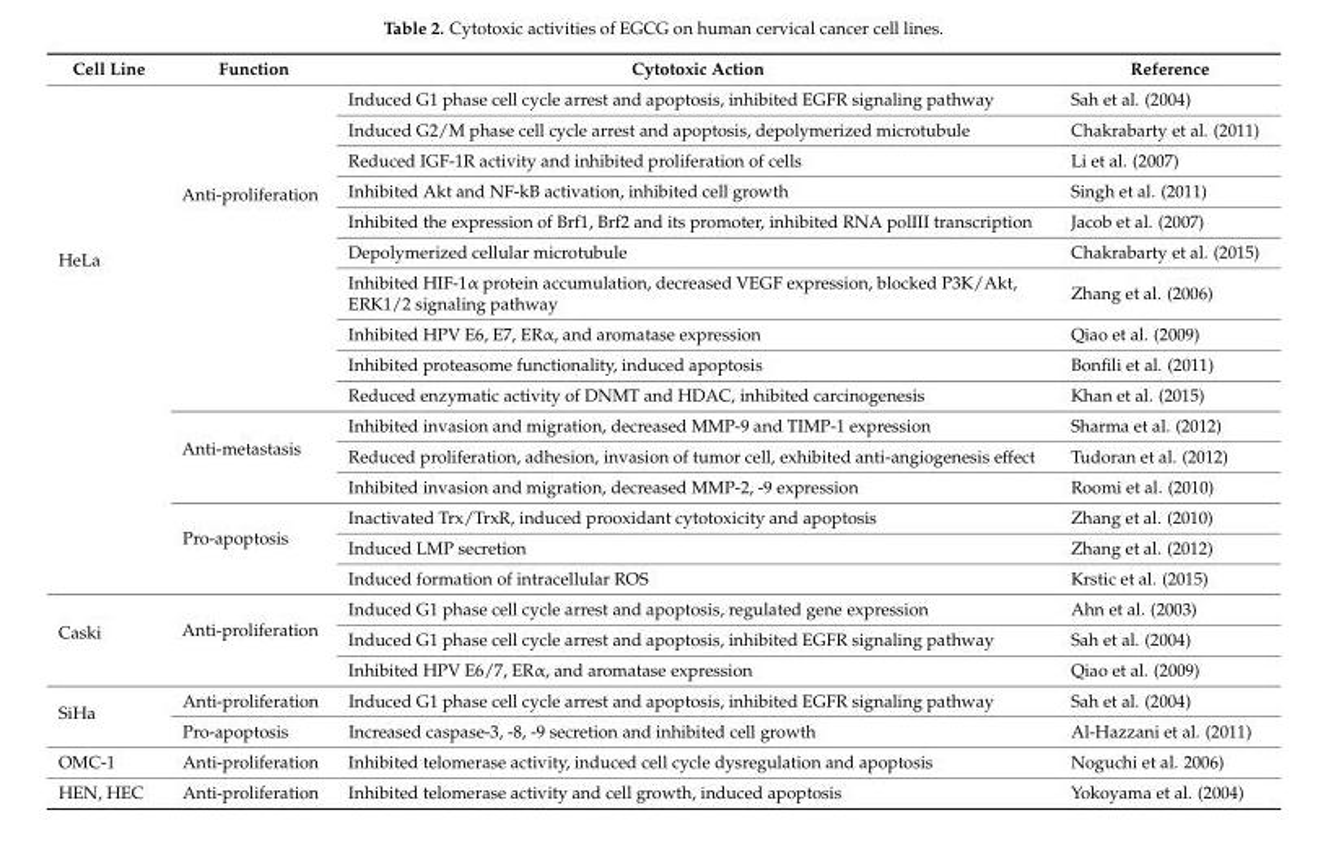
<table><thead><tr><td>Cell Line</td><td>Function</td><td>Cytotoxic Action</td><td>Reference</td></tr></thead><tbody><tr><td rowspan="16">HeLa</td><td rowspan="10">Anti-proliferation</td><td>Induced G1 phase cell cycle arrest and apoptosis, inhibited EGFR signaling pathway</td><td>Sah et al. (2004)</td></tr><tr><td>Induced G2/M phase cell cycle arrest and apoptosis, depolymerized microtubule</td><td>Chakrabarty et al. (2011)</td></tr><tr><td>Reduced IGF-1R activity and inhibited proliferation of cells</td><td>Li et al. (2007)</td></tr><tr><td>Inhibited Akt and NF-kB activation, inhibited cell growth</td><td>Singh et al. (2011)</td></tr><tr><td>Inhibited the expression of Brf1, Brf2 and its promoter, inhibited RNA polIII transcription</td><td>Jacob et al. (2007)</td></tr><tr><td>Depolymerized cellular microtubule</td><td>Chakrabarty et al. (2015)</td></tr><tr><td>Inhibited HIF-1α protein accumulation, decreased VEGF expression, blocked P3K/Akt, ERK1/2 signaling pathway</td><td>Zhang et al. (2006)</td></tr><tr><td>Inhibited HPV E6, E7, ERα, and aromatase expression</td><td>Qiao et al. (2009)</td></tr><tr><td>Inhibited proteasome functionality, induced apoptosis</td><td>Bonfili et al. (2011)</td></tr><tr><td>Reduced enzymatic activity of DNMT and HDAC, inhibited carcinogenesis</td><td>Khan et al. (2015)</td></tr><tr><td rowspan="3">Anti-metastasis</td><td>Inhibited invasion and migration, decreased MMP-9 and TIMP-1 expression</td><td>Sharma et al. (2012)</td></tr><tr><td>Reduced proliferation, adhesion, invasion of tumor cell, exhibited anti-angiogenesis effect</td><td>Tudoran et al. (2012)</td></tr><tr><td>Inhibited invasion and migration, decreased MMP-2, -9 expression</td><td>Roomi et al. (2010)</td></tr><tr><td rowspan="3">Pro-apoptosis</td><td>Inactivated Trx/TrxR, induced prooxidant cytotoxicity and apoptosis</td><td>Zhang et al. (2010)</td></tr><tr><td>Induced LMP secretion</td><td>Zhang et al. (2012)</td></tr><tr><td>Induced formation of intracellular ROS</td><td>Krstic et al. (2015)</td></tr><tr><td rowspan="3">Caski</td><td rowspan="3">Anti-proliferation</td><td>Induced G1 phase cell cycle arrest and apoptosis, regulated gene expression</td><td>Ahn et al. (2003)</td></tr><tr><td>Induced G1 phase cell cycle arrest and apoptosis, inhibited EGFR signaling pathway</td><td>Sah et al. (2004)</td></tr><tr><td>Inhibited HPV E6/7, ERα, and aromatase expression</td><td>Qiao et al. (2009)</td></tr><tr><td rowspan="2">SiHa</td><td>Anti-proliferation</td><td>Induced G1 phase cell cycle arrest and apoptosis, inhibited EGFR signaling pathway</td><td>Sah et al. (2004)</td></tr><tr><td>Pro-apoptosis</td><td>Increased caspase-3, -8, -9 secretion and inhibited cell growth</td><td>Al-Hazzani et al. (2011)</td></tr><tr><td>OMC-1</td><td>Anti-proliferation</td><td>Inhibited telomerase activity, induced cell cycle dysregulation and apoptosis</td><td>Noguchi et al. 2006)</td></tr><tr><td>HEN, HEC</td><td>Anti-proliferation</td><td>Inhibited telomerase activity and cell growth, induced apoptosis</td><td>Yokoyama et al. (2004)</td></tr></tbody></table>